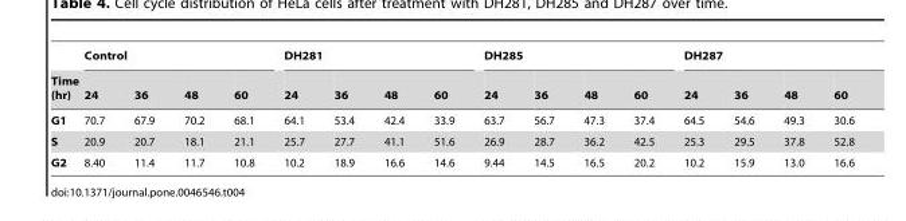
<table><thead><tr><td rowspan="2">Time (hr)</td><td colspan="4">Control</td><td colspan="4">DH281</td><td colspan="4">DH285</td><td colspan="4">DH287</td></tr><tr><td>24</td><td>36</td><td>48</td><td>60</td><td>24</td><td>36</td><td>48</td><td>60</td><td>24</td><td>36</td><td>48</td><td>60</td><td>24</td><td>36</td><td>48</td><td>60</td></tr></thead><tbody><tr><td>G1</td><td>70.7</td><td>67.9</td><td>70.2</td><td>68.1</td><td>64.1</td><td>53.4</td><td>42.4</td><td>33.9</td><td>63.7</td><td>56.7</td><td>47.3</td><td>37.4</td><td>64.5</td><td>54.6</td><td>49.3</td><td>30.6</td></tr><tr><td>S</td><td>20.9</td><td>20.7</td><td>18.1</td><td>21.1</td><td>25.7</td><td>27.7</td><td>41.1</td><td>51.6</td><td>26.9</td><td>28.7</td><td>36.2</td><td>42.5</td><td>25.3</td><td>29.5</td><td>37.8</td><td>52.8</td></tr><tr><td>G2</td><td>8.40</td><td>11.4</td><td>11.7</td><td>10.8</td><td>10.2</td><td>18.9</td><td>16.6</td><td>14.6</td><td>9.44</td><td>14.5</td><td>16.5</td><td>20.2</td><td>10.2</td><td>15.9</td><td>13.0</td><td>16.6</td></tr></tbody></table>